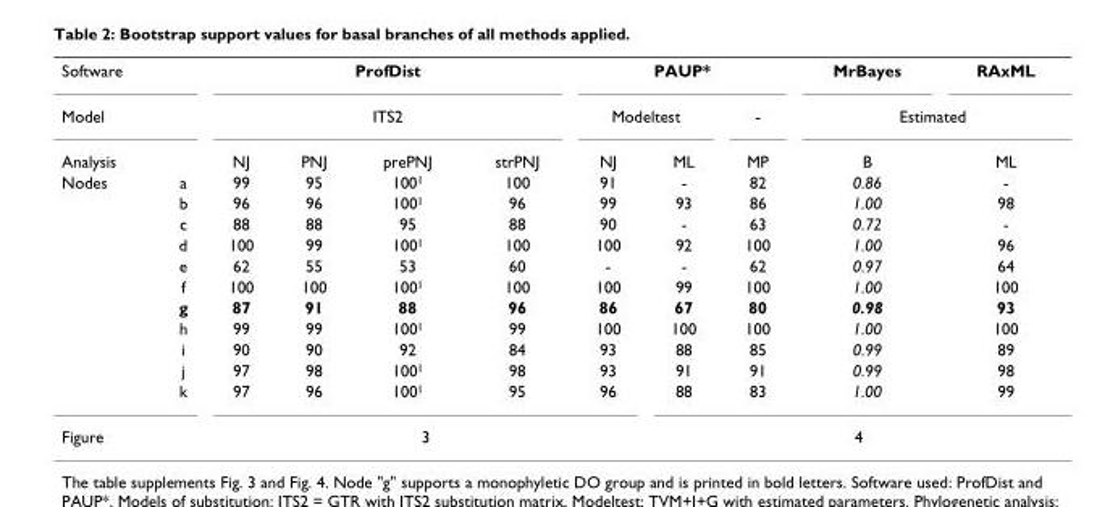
<table><tbody><tr><td colspan="2">Software</td><td colspan="4">ProfDist</td><td colspan="3">PAUP*</td><td>MrBayes</td><td>RAxML</td></tr><tr><td colspan="2">Model</td><td colspan="4">ITS2</td><td colspan="2">Modeltest</td><td>-</td><td colspan="2">Estimated</td></tr><tr><td colspan="2">Analysis</td><td>NJ</td><td>PNJ</td><td>prePNJ</td><td>strPNJ</td><td>NJ</td><td>ML</td><td>MP</td><td>B</td><td>ML</td></tr><tr><td rowspan="11">Nodes</td><td>a</td><td>99</td><td>95</td><td>100<sup>1</sup></td><td>100</td><td>91</td><td>-</td><td>82</td><td>0.86</td><td>-</td></tr><tr><td>b</td><td>96</td><td>96</td><td>100<sup>1</sup></td><td>96</td><td>99</td><td>93</td><td>86</td><td>1.00</td><td>98</td></tr><tr><td>c</td><td>88</td><td>88</td><td>95</td><td>88</td><td>90</td><td>-</td><td>63</td><td>0.72</td><td>-</td></tr><tr><td>d</td><td>100</td><td>99</td><td>100<sup>1</sup></td><td>100</td><td>100</td><td>92</td><td>100</td><td>1.00</td><td>96</td></tr><tr><td>e</td><td>62</td><td>55</td><td>53</td><td>60</td><td>-</td><td>-</td><td>62</td><td>0.97</td><td>64</td></tr><tr><td>f</td><td>100</td><td>100</td><td>100<sup>1</sup></td><td>100</td><td>100</td><td>99</td><td>100</td><td>1.00</td><td>100</td></tr><tr><td>g</td><td>87</td><td>91</td><td>88</td><td>96</td><td>86</td><td>67</td><td>80</td><td>0.98</td><td>93</td></tr><tr><td>h</td><td>99</td><td>99</td><td>100<sup>1</sup></td><td>99</td><td>100</td><td>100</td><td>100</td><td>1.00</td><td>100</td></tr><tr><td>i</td><td>90</td><td>90</td><td>92</td><td>84</td><td>93</td><td>88</td><td>85</td><td>0.99</td><td>89</td></tr><tr><td>j</td><td>97</td><td>98</td><td>100<sup>1</sup></td><td>98</td><td>93</td><td>91</td><td>91</td><td>0.99</td><td>98</td></tr><tr><td>k</td><td>97</td><td>96</td><td>100<sup>1</sup></td><td>95</td><td>96</td><td>88</td><td>83</td><td>1.00</td><td>99</td></tr><tr><td colspan="2">Figure</td><td colspan="5">3</td><td colspan="4">4</td></tr></tbody></table>